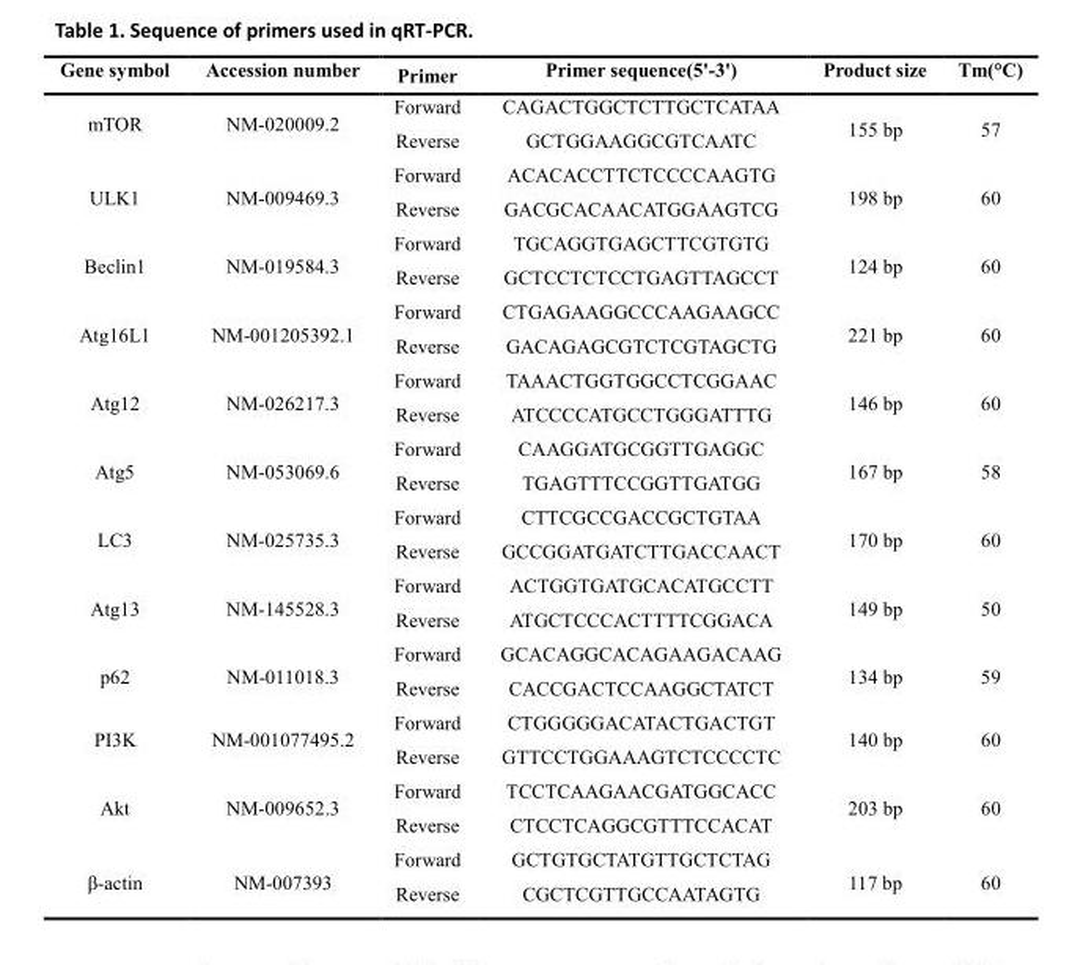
<table><tbody><tr><td>Gene symbol</td><td>Accession number</td><td>Primer</td><td>Primer sequence(5&#x27;-3&#x27;)</td><td>Product size</td><td>Tm(°C)</td></tr><tr><td rowspan="2">mTOR</td><td rowspan="2">NM-020009.2</td><td>Forward</td><td>CAGACTGGCTCTTGCTCATAA</td><td rowspan="2">155 bp</td><td rowspan="2">57</td></tr><tr><td>Reverse</td><td>GCTGGAAGGCGTCAATC</td></tr><tr><td rowspan="2">ULK1</td><td rowspan="2">NM-009469.3</td><td>Forward</td><td>ACACACCTTCTCCCCAAGTG</td><td rowspan="2">198 bp</td><td rowspan="2">60</td></tr><tr><td>Reverse</td><td>GACGCACAACATGGAAGTCG</td></tr><tr><td rowspan="2">Beclin1</td><td rowspan="2">NM-019584.3</td><td>Forward</td><td>TGCAGGTGAGCTTCGTGTG</td><td rowspan="2">124 bp</td><td rowspan="2">60</td></tr><tr><td>Reverse</td><td>GCTCCTCTCCTGAGTTAGCCT</td></tr><tr><td rowspan="2">Atg16L1</td><td rowspan="2">NM-001205392.1</td><td>Forward</td><td>CTGAGAAGGCCCAAGAAGCC</td><td rowspan="2">221 bp</td><td rowspan="2">60</td></tr><tr><td>Reverse</td><td>GACAGAGCGTCTCGTAGCTG</td></tr><tr><td rowspan="2">Atg12</td><td rowspan="2">NM-026217.3</td><td>Forward</td><td>TAAACTGGTGGCCTCGGAAC</td><td rowspan="2">146 bp</td><td rowspan="2">60</td></tr><tr><td>Reverse</td><td>ATCCCCATGCCTGGGATTTG</td></tr><tr><td rowspan="2">Atg5</td><td rowspan="2">NM-053069.6</td><td>Forward</td><td>CAAGGATGCGGTTGAGGC</td><td rowspan="2">167 bp</td><td rowspan="2">58</td></tr><tr><td>Reverse</td><td>TGAGTTTCCGGTTGATGG</td></tr><tr><td rowspan="2">LC3</td><td rowspan="2">NM-025735.3</td><td>Forward</td><td>CTTCGCCGACCGCTGTAA</td><td rowspan="2">170 bp</td><td rowspan="2">60</td></tr><tr><td>Reverse</td><td>GCCGGATGATCTTGACCAACT</td></tr><tr><td rowspan="2">Atg13</td><td rowspan="2">NM-145528.3</td><td>Forward</td><td>ACTGGTGATGCACATGCCTT</td><td rowspan="2">149 bp</td><td rowspan="2">50</td></tr><tr><td>Reverse</td><td>ATGCTCCCACTTTTCGGACA</td></tr><tr><td rowspan="2">p62</td><td rowspan="2">NM-011018.3</td><td>Forward</td><td>GCACAGGCACAGAAGACAAG</td><td rowspan="2">134 bp</td><td rowspan="2">59</td></tr><tr><td>Reverse</td><td>CACCGACTCCAAGGCTATCT</td></tr><tr><td rowspan="2">PI3K</td><td rowspan="2">NM-001077495.2</td><td>Forward</td><td>CTGGGGGACATACTGACTGT</td><td rowspan="2">140 bp</td><td rowspan="2">60</td></tr><tr><td>Reverse</td><td>GTTCCTGGAAAGTCTCCCCTC</td></tr><tr><td rowspan="2">Akt</td><td rowspan="2">NM-009652.3</td><td>Forward</td><td>TCCTCAAGAACGATGGCACC</td><td rowspan="2">203 bp</td><td rowspan="2">60</td></tr><tr><td>Reverse</td><td>CTCCTCAGGCGTTTCCACAT</td></tr><tr><td rowspan="2">β-actin</td><td rowspan="2">NM-007393</td><td>Forward</td><td>GCTGTGCTATGTTGCTCTAG</td><td rowspan="2">117 bp</td><td rowspan="2">60</td></tr><tr><td>Reverse</td><td>CGCTCGTTGCCAATAGTG</td></tr></tbody></table>